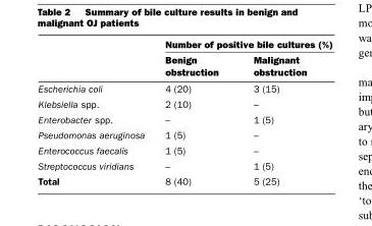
<table><thead><tr><td rowspan="2"></td><td colspan="2">Number of positive bile cultures (%)</td></tr><tr><td>Benign obstruction</td><td>Malignant obstruction</td></tr></thead><tbody><tr><td>Escherichia coli</td><td>4 (20)</td><td>3 (15)</td></tr><tr><td>Klebsiella spp.</td><td>2 (10)</td><td>–</td></tr><tr><td>Enterobacter spp.</td><td>–</td><td>1 (5)</td></tr><tr><td>Pseudomonas aeruginosa</td><td>1 (5)</td><td>–</td></tr><tr><td>Enterococcus faecalis</td><td>1 (5)</td><td>–</td></tr><tr><td>Streptococcus viridians</td><td>–</td><td>1 (5)</td></tr><tr><td>Total</td><td>8 (40)</td><td>5 (25)</td></tr></tbody></table>